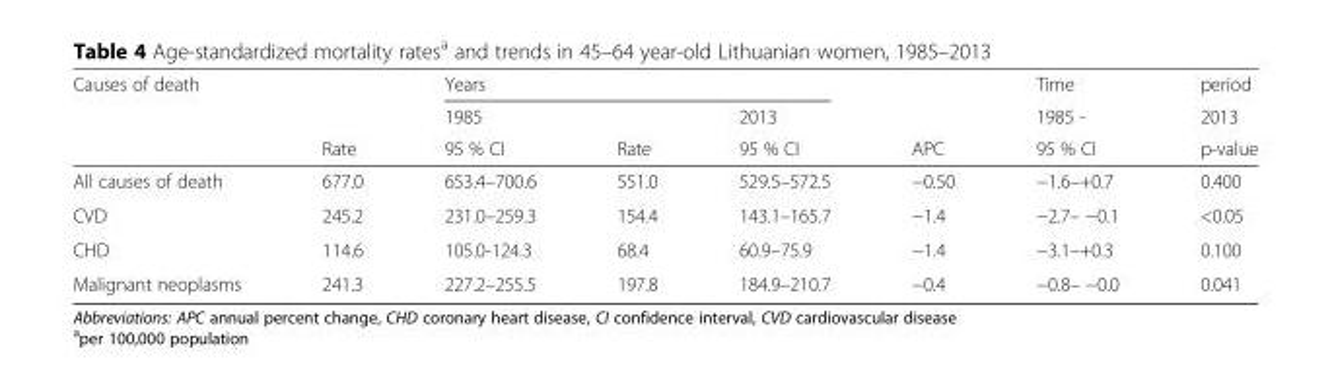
<table><thead><tr><td rowspan="3">Causes of death</td><td rowspan="3">Rate</td><td colspan="3">Years</td><td rowspan="3">APC</td><td rowspan="3">Time 1985 - 95 % CI</td><td rowspan="3">period 2013 p-value</td></tr><tr><td rowspan="2">1985 95 % CI</td><td rowspan="2">Rate</td><td rowspan="2">2013 95 % CI</td></tr><tr></tr></thead><tbody><tr><td>All causes of death</td><td>677.0</td><td>653.4–700.6</td><td>551.0</td><td>529.5–572.5</td><td>−0.50</td><td>−1.6–+0.7</td><td>0.400</td></tr><tr><td>CVD</td><td>245.2</td><td>231.0–259.3</td><td>154.4</td><td>143.1–165.7</td><td>−1.4</td><td>−2.7– −0.1</td><td>&lt;0.05</td></tr><tr><td>CHD</td><td>114.6</td><td>105.0-124.3</td><td>68.4</td><td>60.9–75.9</td><td>−1.4</td><td>−3.1–+0.3</td><td>0.100</td></tr><tr><td>Malignant neoplasms</td><td>241.3</td><td>227.2–255.5</td><td>197.8</td><td>184.9–210.7</td><td>−0.4</td><td>−0.8– −0.0</td><td>0.041</td></tr></tbody></table>